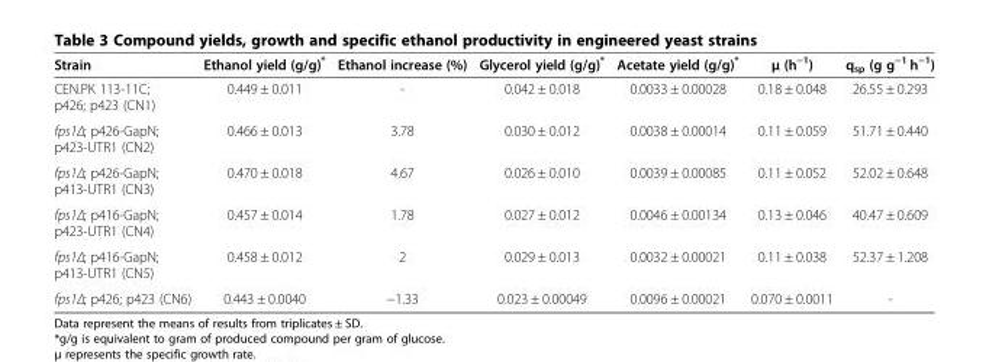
<table><thead><tr><td>Strain</td><td>Ethanol yield (g/g)*</td><td>Ethanol increase (%)</td><td>Glycerol yield (g/g)*</td><td>Acetate yield (g/g)*</td><td>μ (h<sup>−1</sup>)</td><td>q<sub>sp</sub> (g g<sup>−1</sup> h<sup>−1</sup>)</td></tr></thead><tbody><tr><td>CEN.PK 113-11C; p426; p423 (CN1)</td><td>0.449 ± 0.011</td><td>-</td><td>0.042 ± 0.018</td><td>0.0033 ± 0.00028</td><td>0.18 ± 0.048</td><td>26.55 ± 0.293</td></tr><tr><td>fps1Δ; p426-GapN; p423-UTR1 (CN2)</td><td>0.466 ± 0.013</td><td>3.78</td><td>0.030 ± 0.012</td><td>0.0038 ± 0.00014</td><td>0.11 ± 0.059</td><td>51.71 ± 0.440</td></tr><tr><td>fps1Δ; p426-GapN; p413-UTR1 (CN3)</td><td>0.470 ± 0.018</td><td>4.67</td><td>0.026 ± 0.010</td><td>0.0039 ± 0.00085</td><td>0.11 ± 0.052</td><td>52.02 ± 0.648</td></tr><tr><td>fps1Δ; p416-GapN; p423-UTR1 (CN4)</td><td>0.457 ± 0.014</td><td>1.78</td><td>0.027 ± 0.012</td><td>0.0046 ± 0.00134</td><td>0.13 ± 0.046</td><td>40.47 ± 0.609</td></tr><tr><td>fps1Δ; p416-GapN; p413-UTR1 (CN5)</td><td>0.458 ± 0.012</td><td>2</td><td>0.029 ± 0.013</td><td>0.0032 ± 0.00021</td><td>0.11 ± 0.038</td><td>52.37 ± 1.208</td></tr><tr><td>fps1Δ; p426; p423 (CN6)</td><td>0.443 ± 0.0040</td><td>−1.33</td><td>0.023 ± 0.00049</td><td>0.0096 ± 0.00021</td><td>0.070 ± 0.0011</td><td>-</td></tr></tbody></table>